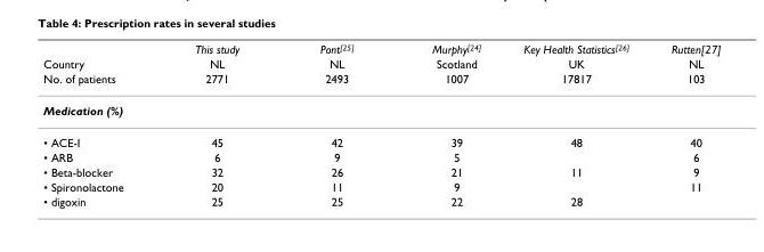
<table><thead><tr><td rowspan="3">Country No. of patients</td><td rowspan="3">This study NL 2771</td><td rowspan="3">Pont[25] NL 2493</td><td rowspan="3">Murphy[24] Scotland 1007</td><td rowspan="3">Key Health Statistics[26] UK 17817</td><td rowspan="3">Rutten[27] NL 103</td></tr><tr></tr><tr></tr></thead><tbody><tr><td colspan="6">Medication (%)</td></tr><tr><td>• ACE-I</td><td>45</td><td>42</td><td>39</td><td>48</td><td>40</td></tr><tr><td>• ARB</td><td>6</td><td>9</td><td>5</td><td></td><td>6</td></tr><tr><td>• Beta-blocker</td><td>32</td><td>26</td><td>21</td><td>11</td><td>9</td></tr><tr><td>• Spironolactone</td><td>20</td><td>11</td><td>9</td><td></td><td>11</td></tr><tr><td>• digoxin</td><td>25</td><td>25</td><td>22</td><td>28</td><td></td></tr></tbody></table>